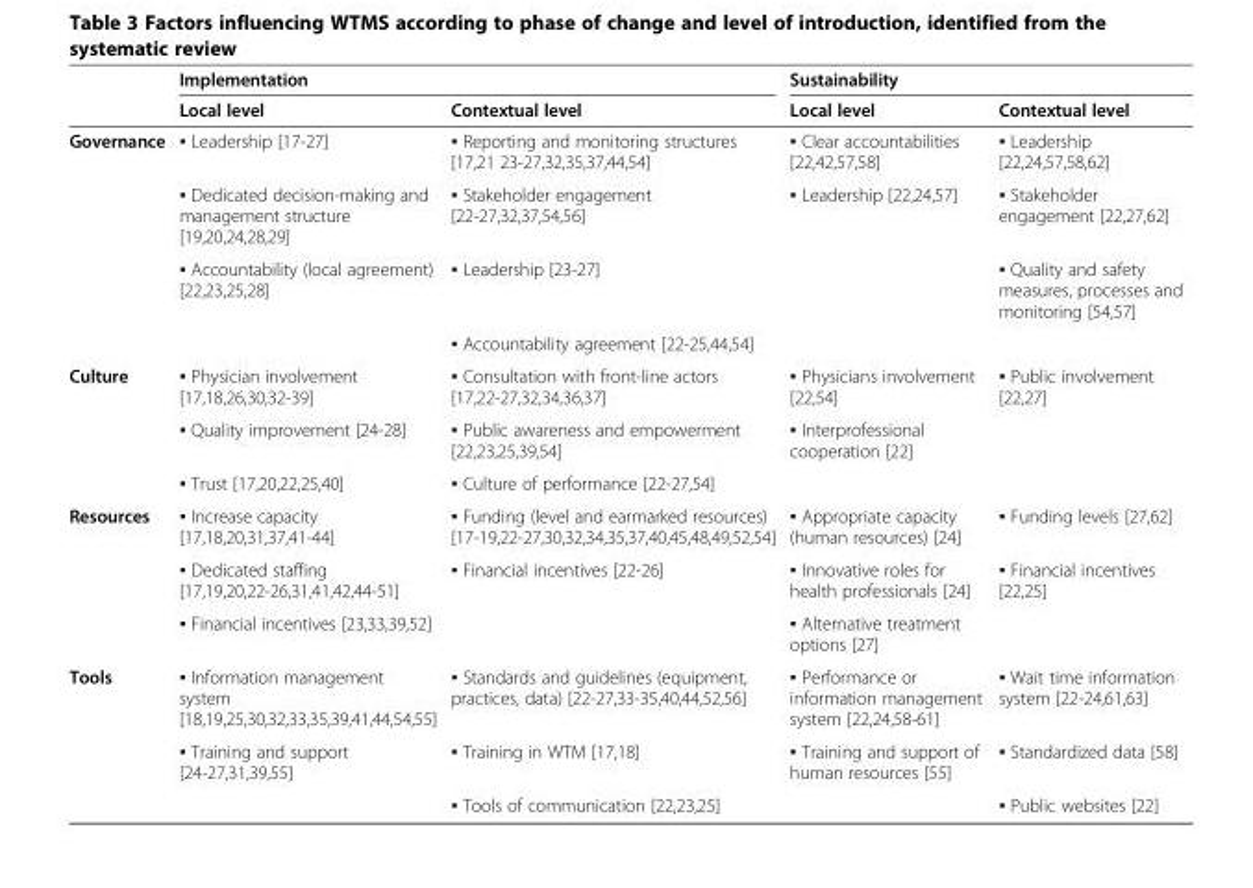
<table><thead><tr><td rowspan="2"></td><td colspan="2">Implementation</td><td colspan="2">Sustainability</td></tr><tr><td>Local level</td><td>Contextual level</td><td>Local level</td><td>Contextual level</td></tr></thead><tbody><tr><td rowspan="4">Governance</td><td>▪ Leadership [17-27]</td><td>▪ Reporting and monitoring structures [17,21 23-27,32,35,37,44,54]</td><td>▪ Clear accountabilities [22,42,57,58]</td><td>▪ Leadership [22,24,57,58,62]</td></tr><tr><td>▪ Dedicated decision-making and management structure [19,20,24,28,29]</td><td>▪ Stakeholder engagement [22-27,32,37,54,56]</td><td>▪ Leadership [22,24,57]</td><td>▪ Stakeholder engagement [22,27,62]</td></tr><tr><td>▪ Accountability (local agreement) [22,23,25,28]</td><td>▪ Leadership [23-27]</td><td></td><td>▪ Quality and safety measures, processes and monitoring [54,57]</td></tr><tr><td></td><td>▪ Accountability agreement [22-25,44,54]</td><td></td><td></td></tr><tr><td rowspan="3">Culture</td><td>▪ Physician involvement [17,18,26,30,32-39]</td><td>▪ Consultation with front-line actors [17,22-27,32,34,36,37]</td><td>▪ Physicians involvement [22,54]</td><td>▪ Public involvement [22,27]</td></tr><tr><td>▪ Quality improvement [24-28]</td><td>▪ Public awareness and empowerment [22,23,25,39,54]</td><td>▪ Interprofessional cooperation [22]</td><td></td></tr><tr><td>▪ Trust [17,20,22,25,40]</td><td>▪ Culture of performance [22-27,54]</td><td></td><td></td></tr><tr><td rowspan="3">Resources</td><td>▪ Increase capacity [17,18,20,31,37,41-44]</td><td>▪ Funding (level and earmarked resources) [17-19,22-27,30,32,34,35,37,40,45,48,49,52,54]</td><td>▪ Appropriate capacity (human resources) [24]</td><td>▪ Funding levels [27,62]</td></tr><tr><td>▪ Dedicated staffing [17,19,20,22-26,31,41,42,44-51]</td><td>▪ Financial incentives [22-26]</td><td>▪ Innovative roles for health professionals [24]</td><td>▪ Financial incentives [22,25]</td></tr><tr><td>▪ Financial incentives [23,33,39,52]</td><td></td><td>▪ Alternative treatment options [27]</td><td></td></tr><tr><td rowspan="3">Tools</td><td>▪ Information management system [18,19,25,30,32,33,35,39,41,44,54,55]</td><td>▪ Standards and guidelines (equipment, practices, data) [22-27,33-35,40,44,52,56]</td><td>▪ Performance or information management system [22,24,58-61]</td><td>▪ Wait time information system [22-24,61,63]</td></tr><tr><td>▪ Training and support [24-27,31,39,55]</td><td>▪ Training in WTM [17,18]</td><td>▪ Training and support of human resources [55]</td><td>▪ Standardized data [58]</td></tr><tr><td></td><td>▪ Tools of communication [22,23,25]</td><td></td><td>▪ Public websites [22]</td></tr></tbody></table>